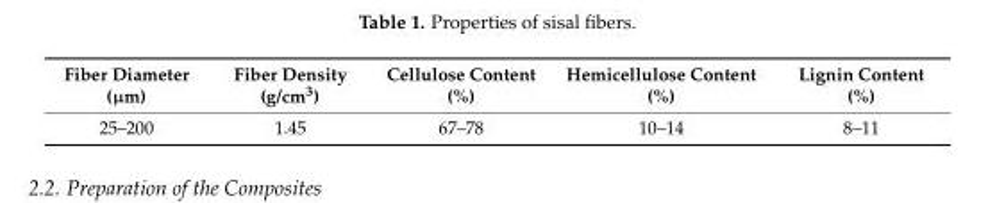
<table><thead><tr><td>Fiber Diameter (µm)</td><td>Fiber Density (g/cm<sup>3</sup>)</td><td>Cellulose Content (%)</td><td>Hemicellulose Content (%)</td><td>Lignin Content (%)</td></tr></thead><tbody><tr><td>25–200</td><td>1.45</td><td>67–78</td><td>10–14</td><td>8–11</td></tr></tbody></table>